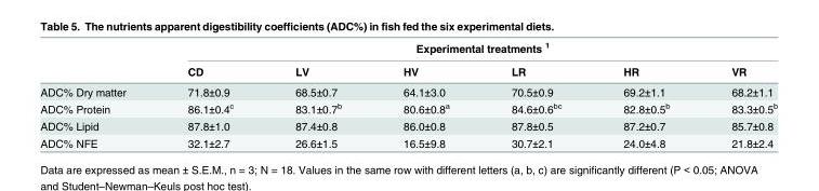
<table><thead><tr><td rowspan="2"></td><td colspan="6">Experimental treatments <sup>1</sup></td></tr><tr><td>CD</td><td>LV</td><td>HV</td><td>LR</td><td>HR</td><td>VR</td></tr></thead><tbody><tr><td>ADC% Dry matter</td><td>71.8±0.9</td><td>68.5±0.7</td><td>64.1±3.0</td><td>70.5±0.9</td><td>69.2±1.1</td><td>68.2±1.1</td></tr><tr><td>ADC% Protein</td><td>86.1±0.4<sup>c</sup></td><td>83.1±0.7<sup>b</sup></td><td>80.6±0.8<sup>a</sup></td><td>84.6±0.6<sup>bc</sup></td><td>82.8±0.5<sup>b</sup></td><td>83.3±0.5<sup>b</sup></td></tr><tr><td>ADC% Lipid</td><td>87.8±1.0</td><td>87.4±0.8</td><td>86.0±0.8</td><td>87.8±0.5</td><td>87.2±0.7</td><td>85.7±0.8</td></tr><tr><td>ADC% NFE</td><td>32.1±2.7</td><td>26.6±1.5</td><td>16.5±9.8</td><td>30.7±2.1</td><td>24.0±4.8</td><td>21.8±2.4</td></tr></tbody></table>